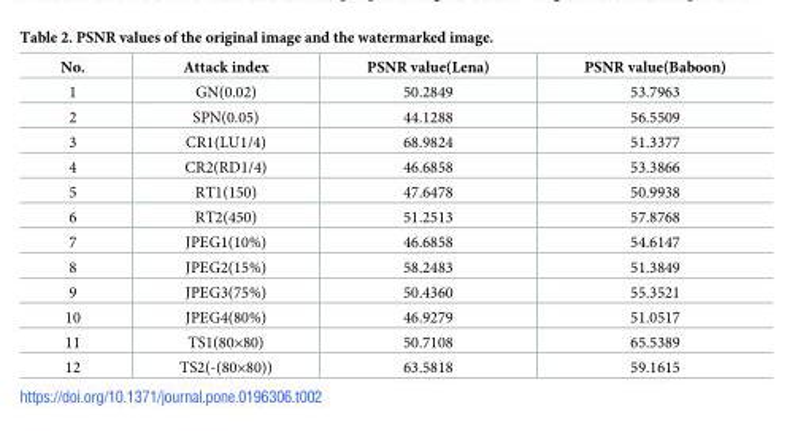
<table><thead><tr><td>No.</td><td>Attack index</td><td>PSNR value(Lena)</td><td>PSNR value(Baboon)</td></tr></thead><tbody><tr><td>1</td><td>GN(0.02)</td><td>50.2849</td><td>53.7963</td></tr><tr><td>2</td><td>SPN(0.05)</td><td>44.1288</td><td>56.5509</td></tr><tr><td>3</td><td>CR1(LU1/4)</td><td>68.9824</td><td>51.3377</td></tr><tr><td>4</td><td>CR2(RD1/4)</td><td>46.6858</td><td>53.3866</td></tr><tr><td>5</td><td>RT1(150)</td><td>47.6478</td><td>50.9938</td></tr><tr><td>6</td><td>RT2(450)</td><td>51.2513</td><td>57.8768</td></tr><tr><td>7</td><td>JPEG1(10%)</td><td>46.6858</td><td>54.6147</td></tr><tr><td>8</td><td>JPEG2(15%)</td><td>58.2483</td><td>51.3849</td></tr><tr><td>9</td><td>JPEG3(75%)</td><td>50.4360</td><td>55.3521</td></tr><tr><td>10</td><td>JPEG4(80%)</td><td>46.9279</td><td>51.0517</td></tr><tr><td>11</td><td>TS1(80×80)</td><td>50.7108</td><td>65.5389</td></tr><tr><td>12</td><td>TS2(-(80×80))</td><td>63.5818</td><td>59.1615</td></tr></tbody></table>